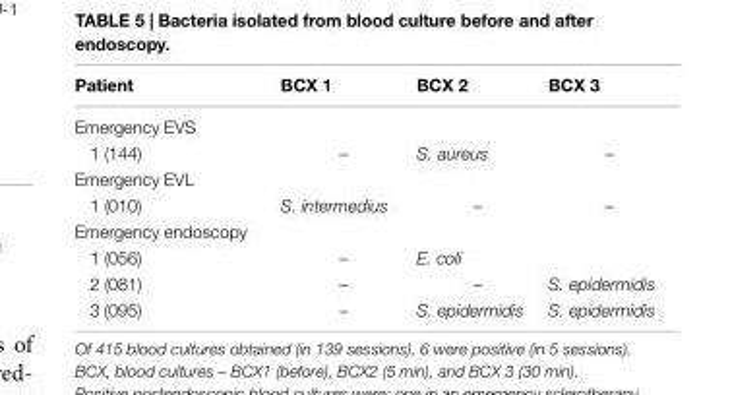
<table><thead><tr><td>Patient</td><td>BcX 1</td><td>BcX 2</td><td>BcX 3</td></tr></thead><tbody><tr><td colspan="4">Emergency EVS</td></tr><tr><td>1 (144)</td><td>–</td><td>S. aureus</td><td>–</td></tr><tr><td colspan="4">Emergency EVL</td></tr><tr><td>1 (010)</td><td>S. intermedius</td><td>–</td><td>–</td></tr><tr><td colspan="4">Emergency endoscopy</td></tr><tr><td>1 (056)</td><td>–</td><td>E. coli</td><td></td></tr><tr><td>2 (081)</td><td>–</td><td>–</td><td>S. epidermidis</td></tr><tr><td>3 (095)</td><td>–</td><td>S. epidermidis</td><td>S. epidermidis</td></tr></tbody></table>